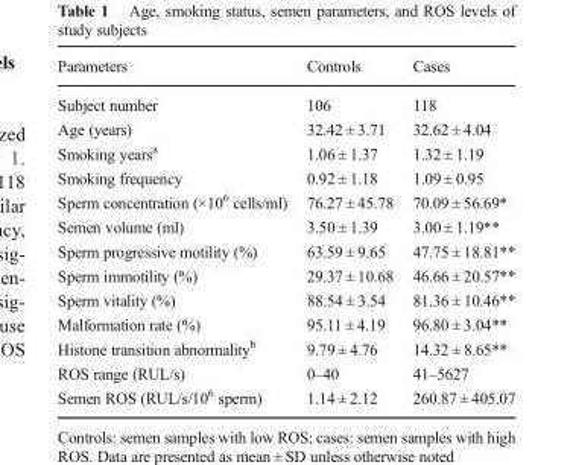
<table><thead><tr><td>Parameters</td><td>Controls</td><td>Cases</td></tr></thead><tbody><tr><td>Subject number</td><td>106</td><td>118</td></tr><tr><td>Age (years)</td><td>32.42 ± 3.71</td><td>32.62 ± 4.04</td></tr><tr><td>Smoking years<sup>a</sup></td><td>1.06 ± 1.37</td><td>1.32 ± 1.19</td></tr><tr><td>Smoking frequency</td><td>0.92 ± 1.18</td><td>1.09 ± 0.95</td></tr><tr><td>Sperm concentration (×10<sup>6</sup> cells/ml)</td><td>76.27 ± 45.78</td><td>70.09 ± 56.69*</td></tr><tr><td>Semen volume (ml)</td><td>3.50 ± 1.39</td><td>3.00 ± 1.19**</td></tr><tr><td>Sperm progressive motility (%)</td><td>63.59 ± 9.65</td><td>47.75 ± 18.81**</td></tr><tr><td>Sperm immotility (%)</td><td>29.37 ± 10.68</td><td>46.66 ± 20.57**</td></tr><tr><td>Sperm vitality (%)</td><td>88.54 ± 3.54</td><td>81.36 ± 10.46**</td></tr><tr><td>Malformation rate (%)</td><td>95.11 ± 4.19</td><td>96.80 ± 3.04**</td></tr><tr><td>Histone transition abnormality<sup>b</sup></td><td>9.79 ± 4.76</td><td>14.32 ± 8.65**</td></tr><tr><td>ROS range (RUL/s)</td><td>0–40</td><td>41–5627</td></tr><tr><td>Semen ROS (RUL/s/10<sup>6</sup> sperm)</td><td>1.14 ± 2.12</td><td>260.87 ± 405.07</td></tr></tbody></table>